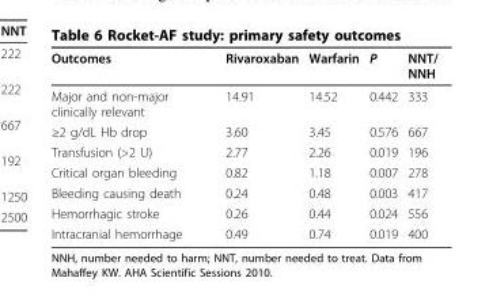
<table><thead><tr><td>Outcomes</td><td>Rivaroxaban</td><td>Warfarin</td><td>P</td><td>NNT/ NNH</td></tr></thead><tbody><tr><td>Major and non-major clinically relevant</td><td>14.91</td><td>14.52</td><td>0.442</td><td>333</td></tr><tr><td>≥2 g/dL Hb drop</td><td>3.60</td><td>3.45</td><td>0.576</td><td>667</td></tr><tr><td>Transfusion (&gt;2 U)</td><td>2.77</td><td>2.26</td><td>0.019</td><td>196</td></tr><tr><td>Critical organ bleeding</td><td>0.82</td><td>1.18</td><td>0.007</td><td>278</td></tr><tr><td>Bleeding causing death</td><td>0.24</td><td>0.48</td><td>0.003</td><td>417</td></tr><tr><td>Hemorrhagic stroke</td><td>0.26</td><td>0.44</td><td>0.024</td><td>556</td></tr><tr><td>Intracranial hemorrhage</td><td>0.49</td><td>0.74</td><td>0.019</td><td>400</td></tr></tbody></table>